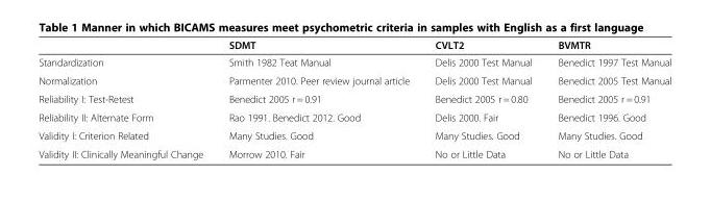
<table><thead><tr><td></td><td>SDMT</td><td>CVLT2</td><td>BVMTR</td></tr></thead><tbody><tr><td>Standardization</td><td>Smith 1982 Teat Manual</td><td>Delis 2000 Test Manual</td><td>Benedict 1997 Test Manual</td></tr><tr><td>Normalization</td><td>Parmenter 2010. Peer review journal article</td><td>Delis 2000 Test Manual</td><td>Benedict 2005 Test Manual</td></tr><tr><td>Reliability I: Test-Retest</td><td>Benedict 2005 r = 0.91</td><td>Benedict 2005 r = 0.80</td><td>Benedict 2005 r = 0.91</td></tr><tr><td>Reliability II: Alternate Form</td><td>Rao 1991. Benedict 2012. Good</td><td>Delis 2000. Fair</td><td>Benedict 1996. Good</td></tr><tr><td>Validity I: Criterion Related</td><td>Many Studies. Good</td><td>Many Studies. Good</td><td>Many Studies. Good</td></tr><tr><td>Validity II: Clinically Meaningful Change</td><td>Morrow 2010. Fair</td><td>No or Little Data</td><td>No or Little Data</td></tr></tbody></table>